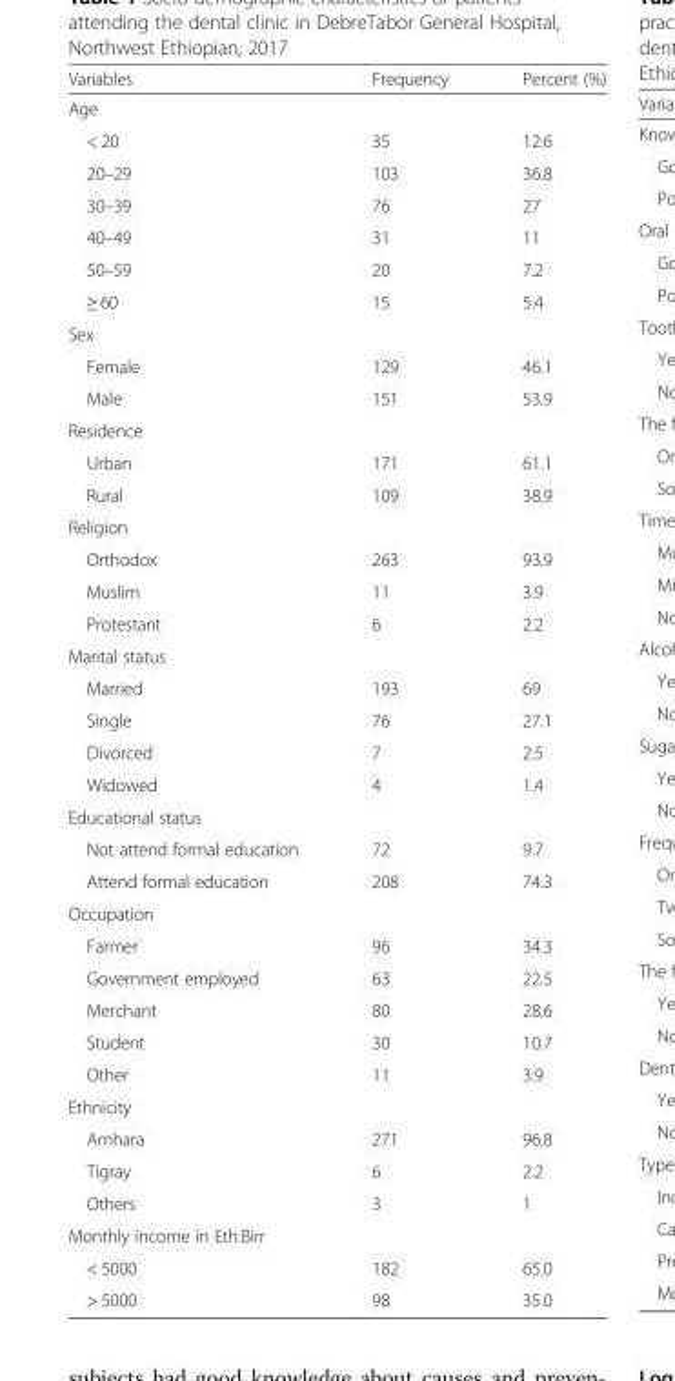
<table><thead><tr><td>Variables</td><td>Frequency</td><td>Percent (%)</td></tr></thead><tbody><tr><td colspan="3">Age</td></tr><tr><td>&lt; 20</td><td>35</td><td>12.6</td></tr><tr><td>20–29</td><td>103</td><td>36.8</td></tr><tr><td>30–39</td><td>76</td><td>27</td></tr><tr><td>40–49</td><td>31</td><td>11</td></tr><tr><td>50–59</td><td>20</td><td>7.2</td></tr><tr><td>≥ 60</td><td>15</td><td>5.4</td></tr><tr><td colspan="3">Sex</td></tr><tr><td>Female</td><td>129</td><td>46.1</td></tr><tr><td>Male</td><td>151</td><td>53.9</td></tr><tr><td colspan="3">Residence</td></tr><tr><td>Urban</td><td>171</td><td>61.1</td></tr><tr><td>Rural</td><td>109</td><td>38.9</td></tr><tr><td colspan="3">Religion</td></tr><tr><td>Orthodox</td><td>263</td><td>93.9</td></tr><tr><td>Muslim</td><td>11</td><td>3.9</td></tr><tr><td>Protestant</td><td>6</td><td>2.2</td></tr><tr><td colspan="3">Marital status</td></tr><tr><td>Married</td><td>193</td><td>69</td></tr><tr><td>Single</td><td>76</td><td>27.1</td></tr><tr><td>Divorced</td><td>7</td><td>2.5</td></tr><tr><td>Widowed</td><td>4</td><td>1.4</td></tr><tr><td colspan="3">Educational status</td></tr><tr><td>Not attend formal education</td><td>72</td><td>9.7</td></tr><tr><td>Attend formal education</td><td>208</td><td>74.3</td></tr><tr><td colspan="3">Occupation</td></tr><tr><td>Farmer</td><td>96</td><td>34.3</td></tr><tr><td>Government employed</td><td>63</td><td>22.5</td></tr><tr><td>Merchant</td><td>80</td><td>28.6</td></tr><tr><td>Student</td><td>30</td><td>10.7</td></tr><tr><td>Other</td><td>11</td><td>3.9</td></tr><tr><td colspan="3">Ethnicity</td></tr><tr><td>Amhara</td><td>271</td><td>96.8</td></tr><tr><td>Tigray</td><td>6</td><td>2.2</td></tr><tr><td>Others</td><td>3</td><td>1</td></tr><tr><td colspan="3">Monthly income in Eth.Birr</td></tr><tr><td>&lt; 5000</td><td>182</td><td>65.0</td></tr><tr><td>&gt; 5000</td><td>98</td><td>35.0</td></tr></tbody></table>